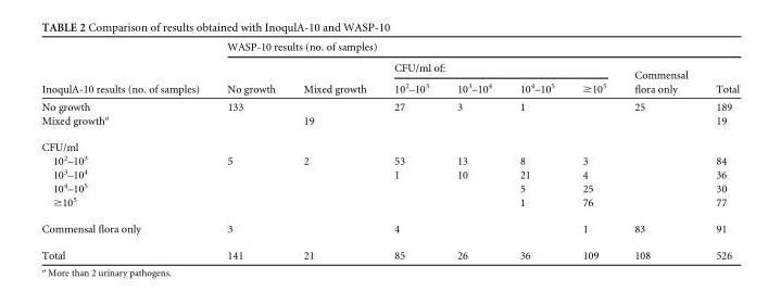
<table><thead><tr><td rowspan="3">InoqulA-10 results (no. of samples)</td><td colspan="8">WASP-10 results (no. of samples)</td></tr><tr><td rowspan="2">No growth</td><td rowspan="2">Mixed growth</td><td colspan="4">CFU/ml of:</td><td rowspan="2">Commensal flora only</td><td rowspan="2">Total</td></tr><tr><td>10<sup>2</sup>–10<sup>3</sup></td><td>10<sup>3</sup>–10<sup>4</sup></td><td>10<sup>4</sup>–10<sup>5</sup></td><td>≥10<sup>5</sup></td></tr></thead><tbody><tr><td>No growth</td><td>133</td><td></td><td>27</td><td>3</td><td>1</td><td></td><td>25</td><td>189</td></tr><tr><td>Mixed growth<sup>a</sup></td><td></td><td>19</td><td></td><td></td><td></td><td></td><td></td><td>19</td></tr><tr><td colspan="9">CFU/ml</td></tr><tr><td>10<sup>2</sup>–10<sup>3</sup></td><td>5</td><td>2</td><td>53</td><td>13</td><td>8</td><td>3</td><td></td><td>84</td></tr><tr><td>10<sup>3</sup>–10<sup>4</sup></td><td></td><td></td><td>1</td><td>10</td><td>21</td><td>4</td><td></td><td>36</td></tr><tr><td>10<sup>4</sup>–10<sup>5</sup></td><td></td><td></td><td></td><td></td><td>5</td><td>25</td><td></td><td>30</td></tr><tr><td>≥10<sup>5</sup></td><td></td><td></td><td></td><td></td><td>1</td><td>76</td><td></td><td>77</td></tr><tr><td>Commensal flora only</td><td>3</td><td></td><td>4</td><td></td><td></td><td>1</td><td>83</td><td>91</td></tr><tr><td>Total</td><td>141</td><td>21</td><td>85</td><td>26</td><td>36</td><td>109</td><td>108</td><td>526</td></tr></tbody></table>